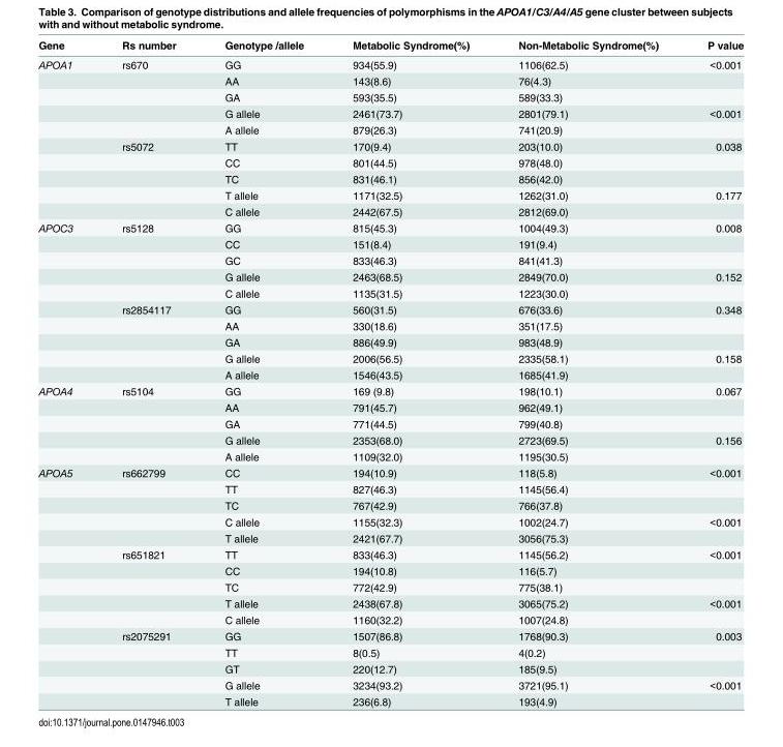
<table><thead><tr><td>Gene</td><td>Rs number</td><td>Genotype /allele</td><td>Metabolic Syndrome(%)</td><td>Non-Metabolic Syndrome(%)</td><td>P value</td></tr></thead><tbody><tr><td rowspan="10">APOA1</td><td>rs670</td><td>GG</td><td>934(55.9)</td><td>1106(62.5)</td><td>&lt;0.001</td></tr><tr><td></td><td>AA</td><td>143(8.6)</td><td>76(4.3)</td><td></td></tr><tr><td></td><td>GA</td><td>593(35.5)</td><td>589(33.3)</td><td></td></tr><tr><td></td><td>G allele</td><td>2461(73.7)</td><td>2801(79.1)</td><td>&lt;0.001</td></tr><tr><td></td><td>A allele</td><td>879(26.3)</td><td>741(20.9)</td><td></td></tr><tr><td>rs5072</td><td>TT</td><td>170(9.4)</td><td>203(10.0)</td><td>0.038</td></tr><tr><td></td><td>CC</td><td>801(44.5)</td><td>978(48.0)</td><td></td></tr><tr><td></td><td>TC</td><td>831(46.1)</td><td>856(42.0)</td><td></td></tr><tr><td></td><td>T allele</td><td>1171(32.5)</td><td>1262(31.0)</td><td>0.177</td></tr><tr><td></td><td>C allele</td><td>2442(67.5)</td><td>2812(69.0)</td><td></td></tr><tr><td rowspan="10">APOC3</td><td>rs5128</td><td>GG</td><td>815(45.3)</td><td>1004(49.3)</td><td>0.008</td></tr><tr><td></td><td>CC</td><td>151(8.4)</td><td>191(9.4)</td><td></td></tr><tr><td></td><td>GC</td><td>833(46.3)</td><td>841(41.3)</td><td></td></tr><tr><td></td><td>G allele</td><td>2463(68.5)</td><td>2849(70.0)</td><td>0.152</td></tr><tr><td></td><td>C allele</td><td>1135(31.5)</td><td>1223(30.0)</td><td></td></tr><tr><td>rs2854117</td><td>GG</td><td>560(31.5)</td><td>676(33.6)</td><td>0.348</td></tr><tr><td></td><td>AA</td><td>330(18.6)</td><td>351(17.5)</td><td></td></tr><tr><td></td><td>GA</td><td>886(49.9)</td><td>983(48.9)</td><td></td></tr><tr><td></td><td>G allele</td><td>2006(56.5)</td><td>2335(58.1)</td><td>0.158</td></tr><tr><td></td><td>A allele</td><td>1546(43.5)</td><td>1685(41.9)</td><td></td></tr><tr><td rowspan="5">APOA4</td><td>rs5104</td><td>GG</td><td>169 (9.8)</td><td>198(10.1)</td><td>0.067</td></tr><tr><td></td><td>AA</td><td>791(45.7)</td><td>962(49.1)</td><td></td></tr><tr><td></td><td>GA</td><td>771(44.5)</td><td>799(40.8)</td><td></td></tr><tr><td></td><td>G allele</td><td>2353(68.0)</td><td>2723(69.5)</td><td>0.156</td></tr><tr><td></td><td>A allele</td><td>1109(32.0)</td><td>1195(30.5)</td><td></td></tr><tr><td rowspan="15">APOA5</td><td>rs662799</td><td>CC</td><td>194(10.9)</td><td>118(5.8)</td><td>&lt;0.001</td></tr><tr><td></td><td>TT</td><td>827(46.3)</td><td>1145(56.4)</td><td></td></tr><tr><td></td><td>TC</td><td>767(42.9)</td><td>766(37.8)</td><td></td></tr><tr><td></td><td>C allele</td><td>1155(32.3)</td><td>1002(24.7)</td><td>&lt;0.001</td></tr><tr><td></td><td>T allele</td><td>2421(67.7)</td><td>3056(75.3)</td><td></td></tr><tr><td>rs651821</td><td>TT</td><td>833(46.3)</td><td>1145(56.2)</td><td>&lt;0.001</td></tr><tr><td></td><td>CC</td><td>194(10.8)</td><td>116(5.7)</td><td></td></tr><tr><td></td><td>TC</td><td>772(42.9)</td><td>775(38.1)</td><td></td></tr><tr><td></td><td>T allele</td><td>2438(67.8)</td><td>3065(75.2)</td><td>&lt;0.001</td></tr><tr><td></td><td>C allele</td><td>1160(32.2)</td><td>1007(24.8)</td><td></td></tr><tr><td>rs2075291</td><td>GG</td><td>1507(86.8)</td><td>1768(90.3)</td><td>0.003</td></tr><tr><td></td><td>TT</td><td>8(0.5)</td><td>4(0.2)</td><td></td></tr><tr><td></td><td>GT</td><td>220(12.7)</td><td>185(9.5)</td><td></td></tr><tr><td></td><td>G allele</td><td>3234(93.2)</td><td>3721(95.1)</td><td>&lt;0.001</td></tr><tr><td></td><td>T allele</td><td>236(6.8)</td><td>193(4.9)</td><td></td></tr></tbody></table>